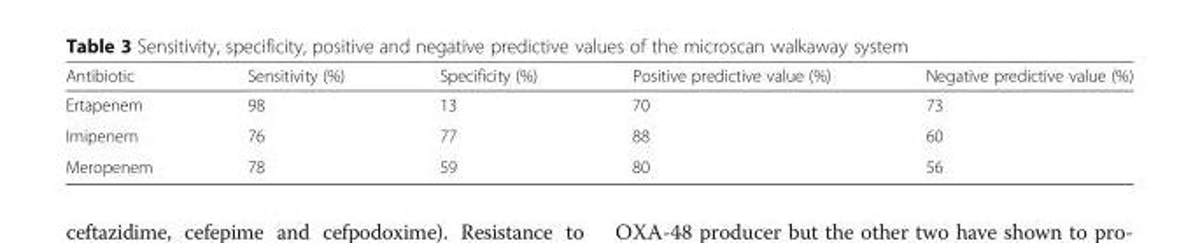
<table><thead><tr><td>Antibiotic</td><td>Sensitivity (%)</td><td>Specificity (%)</td><td>Positive predictive value (%)</td><td>Negative predictive value (%)</td></tr></thead><tbody><tr><td>Ertapenem</td><td>98</td><td>13</td><td>70</td><td>73</td></tr><tr><td>Imipenem</td><td>76</td><td>77</td><td>88</td><td>60</td></tr><tr><td>Meropenem</td><td>78</td><td>59</td><td>80</td><td>56</td></tr></tbody></table>